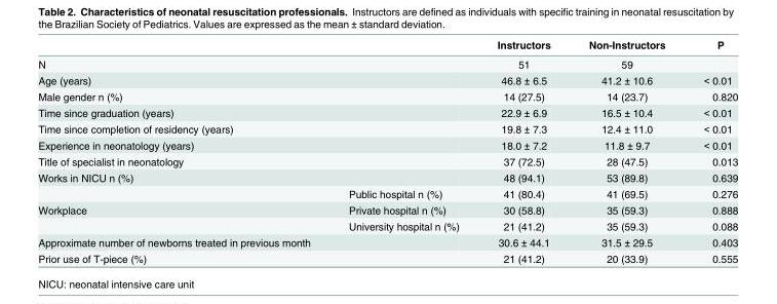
<table><thead><tr><td></td><td></td><td>Instructors</td><td>Non-Instructors</td><td>P</td></tr></thead><tbody><tr><td>N</td><td></td><td>51</td><td>59</td><td></td></tr><tr><td>Age (years)</td><td></td><td>46.8 ± 6.5</td><td>41.2 ± 10.6</td><td>&lt; 0.01</td></tr><tr><td>Male gender n (%)</td><td></td><td>14 (27.5)</td><td>14 (23.7)</td><td>0.820</td></tr><tr><td>Time since graduation (years)</td><td></td><td>22.9 ± 6.9</td><td>16.5 ± 10.4</td><td>&lt; 0.01</td></tr><tr><td>Time since completion of residency (years)</td><td></td><td>19.8 ± 7.3</td><td>12.4 ± 11.0</td><td>&lt; 0.01</td></tr><tr><td>Experience in neonatology (years)</td><td></td><td>18.0 ± 7.2</td><td>11.8 ± 9.7</td><td>&lt; 0.01</td></tr><tr><td>Title of specialist in neonatology</td><td></td><td>37 (72.5)</td><td>28 (47.5)</td><td>0.013</td></tr><tr><td rowspan="2">Works in NICU n (%)</td><td></td><td>48 (94.1)</td><td>53 (89.8)</td><td>0.639</td></tr><tr><td>Public hospital n (%)</td><td>41 (80.4)</td><td>41 (69.5)</td><td>0.276</td></tr><tr><td rowspan="2">Workplace</td><td>Private hospital n (%)</td><td>30 (58.8)</td><td>35 (59.3)</td><td>0.888</td></tr><tr><td>University hospital n (%)</td><td>21 (41.2)</td><td>35 (59.3)</td><td>0.088</td></tr><tr><td>Approximate number of newborns treated in previous month</td><td></td><td>30.6 ± 44.1</td><td>31.5 ± 29.5</td><td>0.403</td></tr><tr><td>Prior use of T-piece (%)</td><td></td><td>21 (41.2)</td><td>20 (33.9)</td><td>0.555</td></tr></tbody></table>